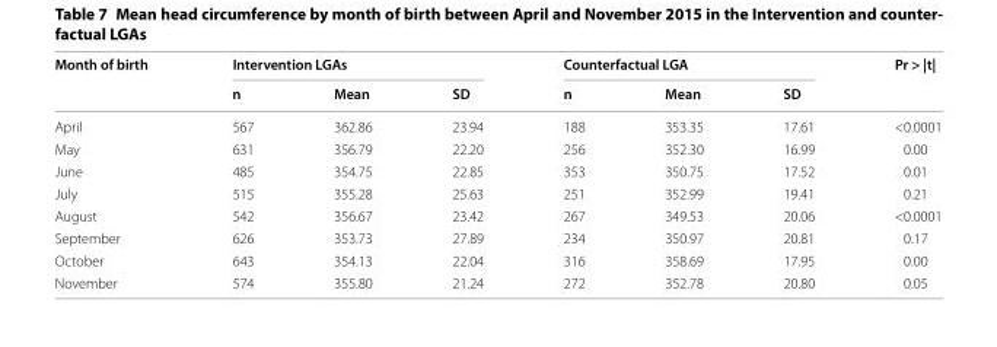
<table><thead><tr><td rowspan="2">Month of birth</td><td colspan="3">Intervention LGAs</td><td colspan="3">Counterfactual LGA</td><td rowspan="2">Pr &gt; |t|</td></tr><tr><td>n</td><td>Mean</td><td>SD</td><td>n</td><td>Mean</td><td>SD</td></tr></thead><tbody><tr><td>April</td><td>567</td><td>362.86</td><td>23.94</td><td>188</td><td>353.35</td><td>17.61</td><td>&lt;0.0001</td></tr><tr><td>May</td><td>631</td><td>356.79</td><td>22.20</td><td>256</td><td>352.30</td><td>16.99</td><td>0.00</td></tr><tr><td>June</td><td>485</td><td>354.75</td><td>22.85</td><td>353</td><td>350.75</td><td>17.52</td><td>0.01</td></tr><tr><td>July</td><td>515</td><td>355.28</td><td>25.63</td><td>251</td><td>352.99</td><td>19.41</td><td>0.21</td></tr><tr><td>August</td><td>542</td><td>356.67</td><td>23.42</td><td>267</td><td>349.53</td><td>20.06</td><td>&lt;0.0001</td></tr><tr><td>September</td><td>626</td><td>353.73</td><td>27.89</td><td>234</td><td>350.97</td><td>20.81</td><td>0.17</td></tr><tr><td>October</td><td>643</td><td>354.13</td><td>22.04</td><td>316</td><td>358.69</td><td>17.95</td><td>0.00</td></tr><tr><td>November</td><td>574</td><td>355.80</td><td>21.24</td><td>272</td><td>352.78</td><td>20.80</td><td>0.05</td></tr></tbody></table>